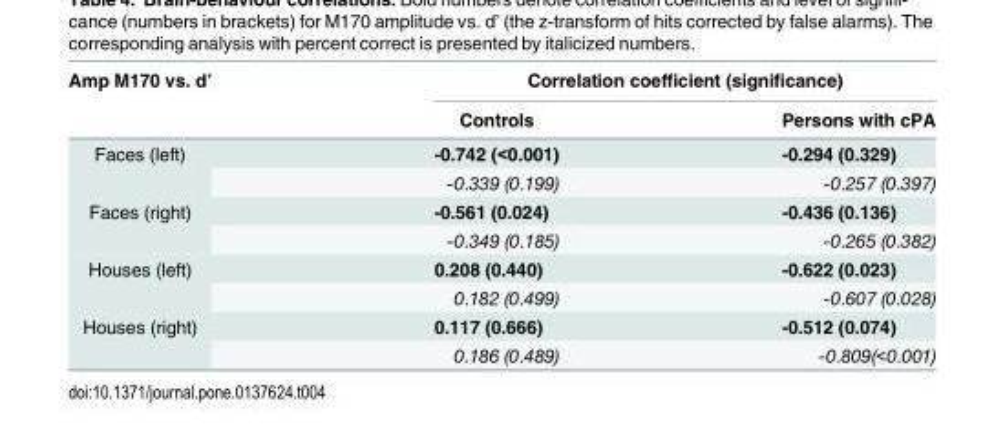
<table><thead><tr><td rowspan="2">Amp M170 vs. d’</td><td colspan="2">Correlation coefficient (significance)</td></tr><tr><td>Controls</td><td>Persons with cPA</td></tr></thead><tbody><tr><td rowspan="2">Faces (left)</td><td>-0.742 (&lt;0.001)</td><td>-0.294 (0.329)</td></tr><tr><td>-0.339 (0.199)</td><td>-0.257 (0.397)</td></tr><tr><td rowspan="2">Faces (right)</td><td>-0.561 (0.024)</td><td>-0.436 (0.136)</td></tr><tr><td>-0.349 (0.185)</td><td>-0.265 (0.382)</td></tr><tr><td rowspan="2">Houses (left)</td><td>0.208 (0.440)</td><td>-0.622 (0.023)</td></tr><tr><td>0.182 (0.499)</td><td>-0.607 (0.028)</td></tr><tr><td rowspan="2">Houses (right)</td><td>0.117 (0.666)</td><td>-0.512 (0.074)</td></tr><tr><td>0.186 (0.489)</td><td>-0.809(&lt;0.001)</td></tr></tbody></table>